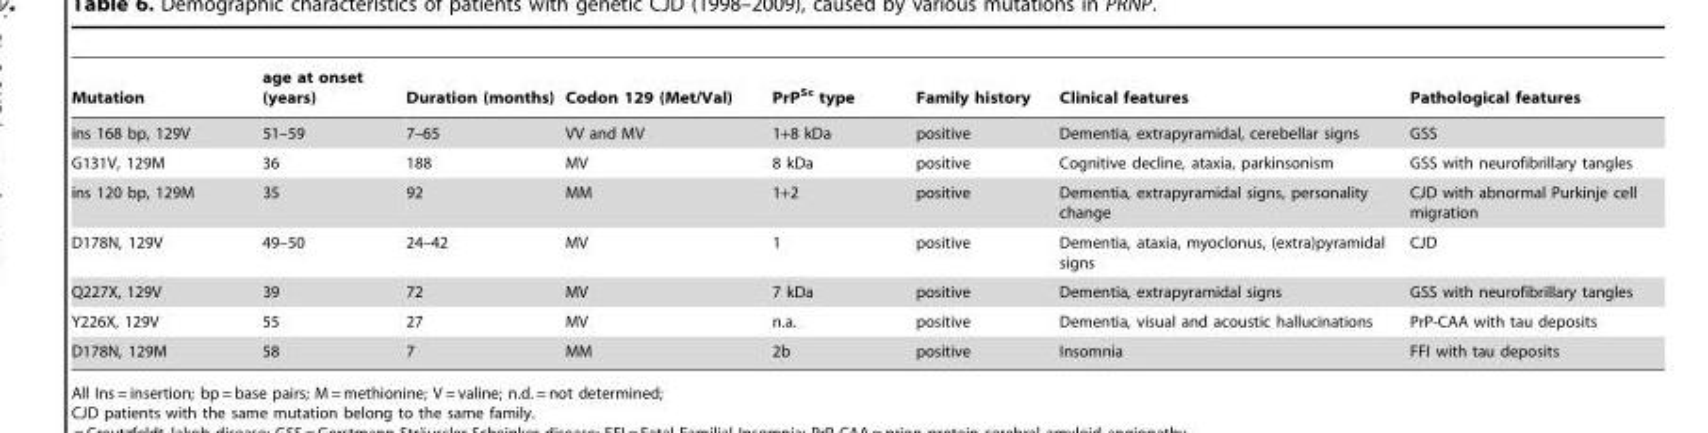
<table><thead><tr><td>Mutation</td><td>age at onset (years)</td><td>Duration (months)</td><td>Codon 129 (Met/Val)</td><td>PrP<sup>Sc</sup> type</td><td>Family history</td><td>Clinical features</td><td>Pathological features</td></tr></thead><tbody><tr><td>ins 168 bp, 129V</td><td>51–59</td><td>7–65</td><td>VV and MV</td><td>1+8 kDa</td><td>positive</td><td>Dementia, extrapyramidal, cerebellar signs</td><td>GSS</td></tr><tr><td>G131V, 129M</td><td>36</td><td>188</td><td>MV</td><td>8 kDa</td><td>positive</td><td>Cognitive decline, ataxia, parkinsonism</td><td>GSS with neurofibrillary tangles</td></tr><tr><td>ins 120 bp, 129M</td><td>35</td><td>92</td><td>MM</td><td>1+2</td><td>positive</td><td>Dementia, extrapyramidal signs, personality change</td><td>CJD with abnormal Purkinje cell migration</td></tr><tr><td>D178N, 129V</td><td>49–50</td><td>24–42</td><td>MV</td><td>1</td><td>positive</td><td>Dementia, ataxia, myoclonus, (extra)pyramidal signs</td><td>CJD</td></tr><tr><td>Q227X, 129V</td><td>39</td><td>72</td><td>MV</td><td>7 kDa</td><td>positive</td><td>Dementia, extrapyramidal signs</td><td>GSS with neurofibrillary tangles</td></tr><tr><td>Y226X, 129V</td><td>55</td><td>27</td><td>MV</td><td>n.a.</td><td>positive</td><td>Dementia, visual and acoustic hallucinations</td><td>PrP-CAA with tau deposits</td></tr><tr><td>D178N, 129M</td><td>58</td><td>7</td><td>MM</td><td>2b</td><td>positive</td><td>Insomnia</td><td>FFI with tau deposits</td></tr></tbody></table>